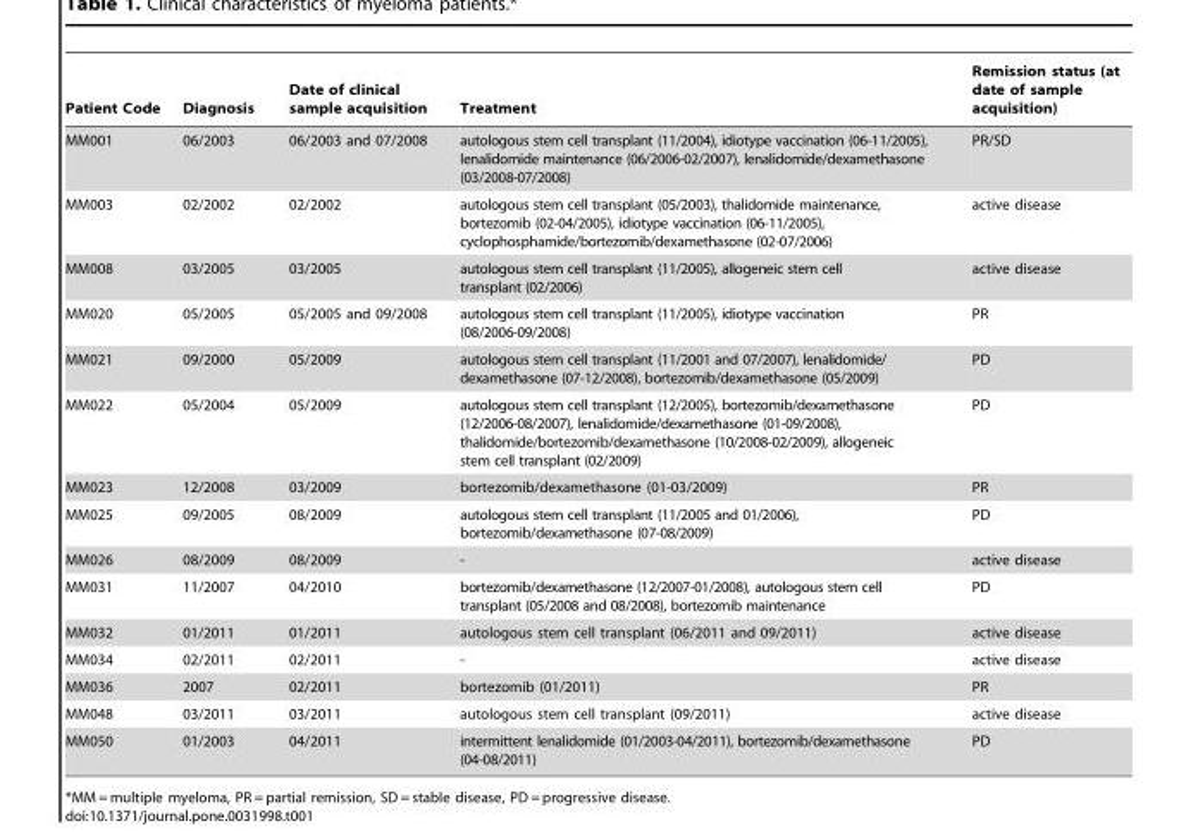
<table><thead><tr><td>Patient Code</td><td>Diagnosis</td><td>Date of clinical sample acquisition</td><td>Treatment</td><td>Remission status (at date of sample acquisition)</td></tr></thead><tbody><tr><td>MM001</td><td>06/2003</td><td>06/2003 and 07/2008</td><td>autologous stem cell transplant (11/2004), idiotype vaccination (06-11/2005), lenalidomide maintenance (06/2006-02/2007), lenalidomide/dexamethasone (03/2008-07/2008)</td><td>PR/SD</td></tr><tr><td>MM003</td><td>02/2002</td><td>02/2002</td><td>autologous stem cell transplant (05/2003), thalidomide maintenance, bortezomib (02-04/2005), idiotype vaccination (06-11/2005), cyclophosphamide/bortezomib/dexamethasone (02-07/2006)</td><td>active disease</td></tr><tr><td>MM008</td><td>03/2005</td><td>03/2005</td><td>autologous stem cell transplant (11/2005), allogeneic stem cell transplant (02/2006)</td><td>active disease</td></tr><tr><td>MM020</td><td>05/2005</td><td>05/2005 and 09/2008</td><td>autologous stem cell transplant (11/2005), idiotype vaccination (08/2006-09/2008)</td><td>PR</td></tr><tr><td>MM021</td><td>09/2000</td><td>05/2009</td><td>autologous stem cell transplant (11/2001 and 07/2007), lenalidomide/ dexamethasone (07-12/2008), bortezomib/dexamethasone (05/2009)</td><td>PD</td></tr><tr><td>MM022</td><td>05/2004</td><td>05/2009</td><td>autologous stem cell transplant (12/2005), bortezomib/dexamethasone (12/2006-08/2007), lenalidomide/dexamethasone (01-09/2008), thalidomide/bortezomib/dexamethasone (10/2008-02/2009), allogeneic stem cell transplant (02/2009)</td><td>PD</td></tr><tr><td>MM023</td><td>12/2008</td><td>03/2009</td><td>bortezomib/dexamethasone (01-03/2009)</td><td>PR</td></tr><tr><td>MM025</td><td>09/2005</td><td>08/2009</td><td>autologous stem cell transplant (11/2005 and 01/2006), bortezomib/dexamethasone (07-08/2009)</td><td>PD</td></tr><tr><td>MM026</td><td>08/2009</td><td>08/2009</td><td>-</td><td>active disease</td></tr><tr><td>MM031</td><td>11/2007</td><td>04/2010</td><td>bortezomib/dexamethasone (12/2007-01/2008), autologous stem cell transplant (05/2008 and 08/2008), bortezomib maintenance</td><td>PD</td></tr><tr><td>MM032</td><td>01/2011</td><td>01/2011</td><td>autologous stem cell transplant (06/2011 and 09/2011)</td><td>active disease</td></tr><tr><td>MM034</td><td>02/2011</td><td>02/2011</td><td>-</td><td>active disease</td></tr><tr><td>MM036</td><td>2007</td><td>02/2011</td><td>bortezomib (01/2011)</td><td>PR</td></tr><tr><td>MM048</td><td>03/2011</td><td>03/2011</td><td>autologous stem cell transplant (09/2011)</td><td>active disease</td></tr><tr><td>MM050</td><td>01/2003</td><td>04/2011</td><td>intermittent lenalidomide (01/2003-04/2011), bortezomib/dexamethasone (04-08/2011)</td><td>PD</td></tr></tbody></table>